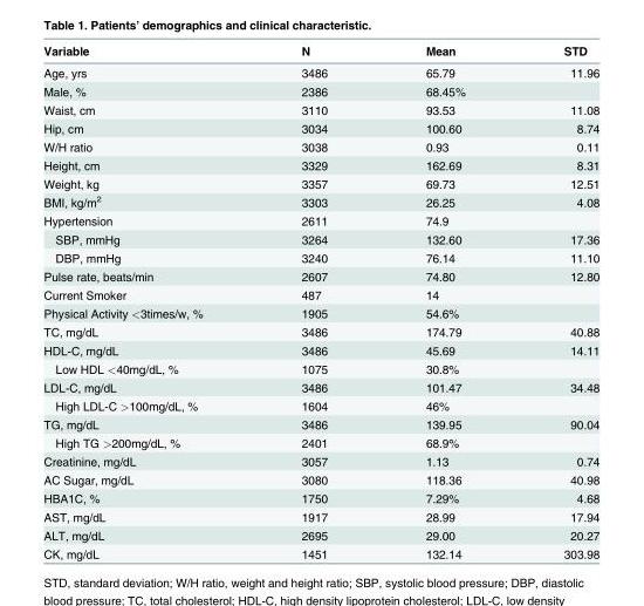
<table><thead><tr><td>Variable</td><td>N</td><td>Mean</td><td>STD</td></tr></thead><tbody><tr><td>Age, yrs</td><td>3486</td><td>65.79</td><td>11.96</td></tr><tr><td>Male, %</td><td>2386</td><td>68.45%</td><td></td></tr><tr><td>Waist, cm</td><td>3110</td><td>93.53</td><td>11.08</td></tr><tr><td>Hip, cm</td><td>3034</td><td>100.60</td><td>8.74</td></tr><tr><td>W/H ratio</td><td>3038</td><td>0.93</td><td>0.11</td></tr><tr><td>Height, cm</td><td>3329</td><td>162.69</td><td>8.31</td></tr><tr><td>Weight, kg</td><td>3357</td><td>69.73</td><td>12.51</td></tr><tr><td>BMI, kg/m<sup>2</sup></td><td>3303</td><td>26.25</td><td>4.08</td></tr><tr><td>Hypertension</td><td>2611</td><td>74.9</td><td></td></tr><tr><td>SBP, mmHg</td><td>3264</td><td>132.60</td><td>17.36</td></tr><tr><td>DBP, mmHg</td><td>3240</td><td>76.14</td><td>11.10</td></tr><tr><td>Pulse rate, beats/min</td><td>2607</td><td>74.80</td><td>12.80</td></tr><tr><td>Current Smoker</td><td>487</td><td>14</td><td></td></tr><tr><td>Physical Activity &lt;3times/w, %</td><td>1905</td><td>54.6%</td><td></td></tr><tr><td>TC, mg/dL</td><td>3486</td><td>174.79</td><td>40.88</td></tr><tr><td>HDL-C, mg/dL</td><td>3486</td><td>45.69</td><td>14.11</td></tr><tr><td>Low HDL &lt;40mg/dL, %</td><td>1075</td><td>30.8%</td><td></td></tr><tr><td>LDL-C, mg/dL</td><td>3486</td><td>101.47</td><td>34.48</td></tr><tr><td>High LDL-C &gt;100mg/dL, %</td><td>1604</td><td>46%</td><td></td></tr><tr><td>TG, mg/dL</td><td>3486</td><td>139.95</td><td>90.04</td></tr><tr><td>High TG &gt;200mg/dL, %</td><td>2401</td><td>68.9%</td><td></td></tr><tr><td>Creatinine, mg/dL</td><td>3057</td><td>1.13</td><td>0.74</td></tr><tr><td>AC Sugar, mg/dL</td><td>3080</td><td>118.36</td><td>40.98</td></tr><tr><td>HBA1C, %</td><td>1750</td><td>7.29%</td><td>4.68</td></tr><tr><td>AST, mg/dL</td><td>1917</td><td>28.99</td><td>17.94</td></tr><tr><td>ALT, mg/dL</td><td>2695</td><td>29.00</td><td>20.27</td></tr><tr><td>CK, mg/dL</td><td>1451</td><td>132.14</td><td>303.98</td></tr></tbody></table>